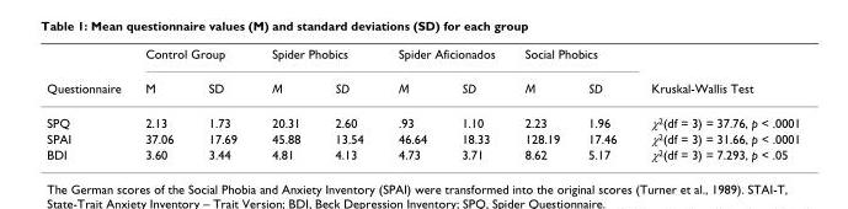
<table><thead><tr><td rowspan="2">Questionnaire</td><td colspan="2">Control Group</td><td colspan="2">Spider Phobics</td><td colspan="2">Spider Aficionados</td><td colspan="2">Social Phobics</td><td rowspan="2">Kruskal-Wallis Test</td></tr><tr><td>M</td><td>SD</td><td>M</td><td>SD</td><td>M</td><td>SD</td><td>M</td><td>SD</td></tr></thead><tbody><tr><td>SPQ</td><td>2.13</td><td>1.73</td><td>20.31</td><td>2.60</td><td>.93</td><td>1.10</td><td>2.23</td><td>1.96</td><td>χ<sup>2</sup>(df = 3) = 37.76, p &lt; .0001</td></tr><tr><td>SPAI</td><td>37.06</td><td>17.69</td><td>45.88</td><td>13.54</td><td>46.64</td><td>18.33</td><td>128.19</td><td>17.46</td><td>χ<sup>2</sup>(df = 3) = 31.66, p &lt; .0001</td></tr><tr><td>BDI</td><td>3.60</td><td>3.44</td><td>4.81</td><td>4.13</td><td>4.73</td><td>3.71</td><td>8.62</td><td>5.17</td><td>χ<sup>2</sup>(df = 3) = 7.293, p &lt; .05</td></tr></tbody></table>